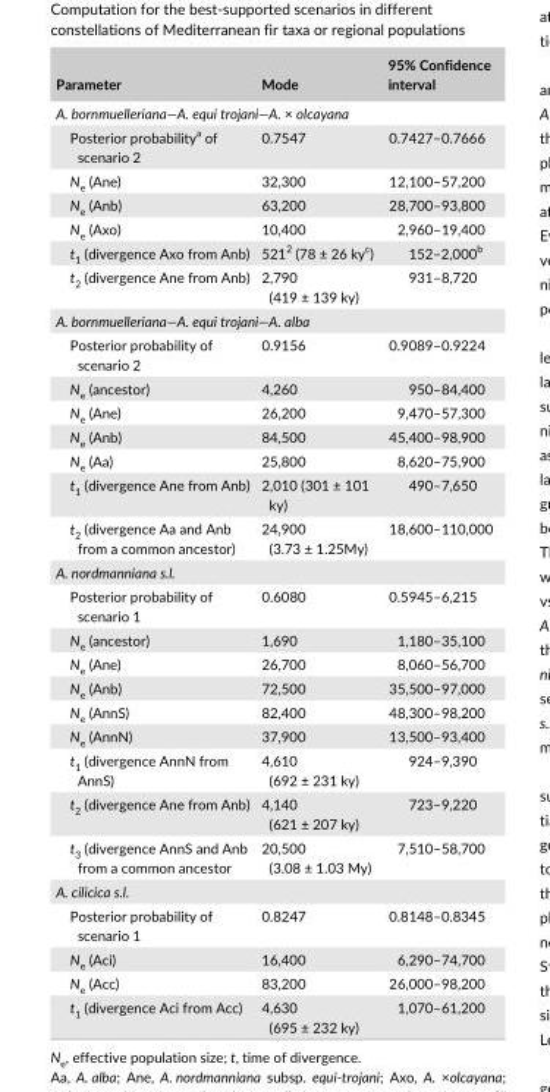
<table><thead><tr><td>Parameter</td><td>Mode</td><td>95% Confidence interval</td></tr></thead><tbody><tr><td colspan="3">A. bornmuelleriana—A. equi trojani—A. × olcayana</td></tr><tr><td>Posterior probability<sup>a</sup> of scenario 2</td><td>0.7547</td><td>0.7427–0.7666</td></tr><tr><td>N<sub>e</sub> (Ane)</td><td>32,300</td><td>12,100–57,200</td></tr><tr><td>N<sub>e</sub> (Anb)</td><td>63,200</td><td>28,700–93,800</td></tr><tr><td>N<sub>e</sub> (Axo)</td><td>10,400</td><td>2,960–19,400</td></tr><tr><td>t<sub>1</sub> (divergence Axo from Anb)</td><td>521<sup>2</sup> (78 ± 26 ky<sup>c</sup>)</td><td>152–2,000<sup>b</sup></td></tr><tr><td>t<sub>2</sub> (divergence Ane from Anb)</td><td>2,790 (419 ± 139 ky)</td><td>931–8,720</td></tr><tr><td colspan="3">A. bornmuelleriana—A. equi trojani—A. alba</td></tr><tr><td>Posterior probability of scenario 2</td><td>0.9156</td><td>0.9089–0.9224</td></tr><tr><td>N<sub>e</sub> (ancestor)</td><td>4,260</td><td>950–84,400</td></tr><tr><td>N<sub>e</sub> (Ane)</td><td>26,200</td><td>9,470–57,300</td></tr><tr><td>N<sub>e</sub> (Anb)</td><td>84,500</td><td>45,400–98,900</td></tr><tr><td>N<sub>e</sub> (Aa)</td><td>25,800</td><td>8,620–75,900</td></tr><tr><td>t<sub>1</sub> (divergence Ane from Anb)</td><td>2,010 (301 ± 101 ky)</td><td>490–7,650</td></tr><tr><td>t<sub>2</sub> (divergence Aa and Anb from a common ancestor)</td><td>24,900 (3.73 ± 1.25My)</td><td>18,600–110,000</td></tr><tr><td colspan="3">A. nordmanniana s.l.</td></tr><tr><td>Posterior probability of scenario 1</td><td>0.6080</td><td>0.5945–6,215</td></tr><tr><td>N<sub>e</sub> (ancestor)</td><td>1,690</td><td>1,180–35,100</td></tr><tr><td>N<sub>e</sub> (Ane)</td><td>26,700</td><td>8,060–56,700</td></tr><tr><td>N<sub>e</sub> (Anb)</td><td>72,500</td><td>35,500–97,000</td></tr><tr><td>N<sub>e</sub> (AnnS)</td><td>82,400</td><td>48,300–98,200</td></tr><tr><td>N<sub>e</sub> (AnnN)</td><td>37,900</td><td>13,500–93,400</td></tr><tr><td>t<sub>1</sub> (divergence AnnN from AnnS)</td><td>4,610 (692 ± 231 ky)</td><td>924–9,390</td></tr><tr><td>t<sub>2</sub> (divergence Ane from Anb)</td><td>4,140 (621 ± 207 ky)</td><td>723–9,220</td></tr><tr><td>t<sub>3</sub> (divergence AnnS and Anb from a common ancestor</td><td>20,500 (3.08 ± 1.03 My)</td><td>7,510–58,700</td></tr><tr><td colspan="3">A. cilicica s.l.</td></tr><tr><td>Posterior probability of scenario 1</td><td>0.8247</td><td>0.8148–0.8345</td></tr><tr><td>N<sub>e</sub> (Aci)</td><td>16,400</td><td>6,290–74,700</td></tr><tr><td>N<sub>e</sub> (Acc)</td><td>83,200</td><td>26,000–98,200</td></tr><tr><td>t<sub>1</sub> (divergence Aci from Acc)</td><td>4,630 (695 ± 232 ky)</td><td>1,070–61,200</td></tr></tbody></table>